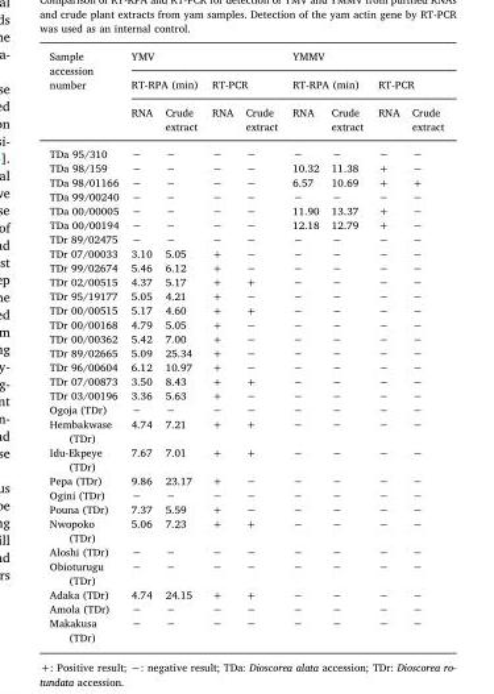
<table><thead><tr><td rowspan="3">Sample accession number</td><td colspan="4">YMV</td><td colspan="4">YMMV</td></tr><tr><td colspan="2">RT-RPA (min)</td><td colspan="2">RT-PCR</td><td colspan="2">RT-RPA (min)</td><td colspan="2">RT-PCR</td></tr><tr><td>RNA</td><td>Crude extract</td><td>RNA</td><td>Crude extract</td><td>RNA</td><td>Crude extract</td><td>RNA</td><td>Crude extract</td></tr></thead><tbody><tr><td>TDa 95/310</td><td>−</td><td>−</td><td>−</td><td>−</td><td>−</td><td>−</td><td>−</td><td>−</td></tr><tr><td>TDa 98/159</td><td>−</td><td>−</td><td>−</td><td>−</td><td>10.32</td><td>11.38</td><td>+</td><td>−</td></tr><tr><td>TDa 98/01166</td><td>−</td><td>−</td><td>−</td><td>−</td><td>6.57</td><td>10.69</td><td>+</td><td>+</td></tr><tr><td>TDa 99/00240</td><td>−</td><td>−</td><td>−</td><td>−</td><td>−</td><td>−</td><td>−</td><td>−</td></tr><tr><td>TDa 00/00005</td><td>−</td><td>−</td><td>−</td><td>−</td><td>11.90</td><td>13.37</td><td>+</td><td>−</td></tr><tr><td>TDa 00/00194</td><td>−</td><td>−</td><td>−</td><td>−</td><td>12.18</td><td>12.79</td><td>+</td><td>−</td></tr><tr><td>TDr 89/02475</td><td>−</td><td>−</td><td>−</td><td>−</td><td>−</td><td>−</td><td>−</td><td>−</td></tr><tr><td>TDr 07/00033</td><td>3.10</td><td>5.05</td><td>+</td><td>−</td><td>−</td><td>−</td><td>−</td><td>−</td></tr><tr><td>TDr 99/02674</td><td>5.46</td><td>6.12</td><td>+</td><td>−</td><td>−</td><td>−</td><td>−</td><td>−</td></tr><tr><td>TDr 02/00515</td><td>4.37</td><td>5.17</td><td>+</td><td>+</td><td>−</td><td>−</td><td>−</td><td>−</td></tr><tr><td>TDr 95/19177</td><td>5.05</td><td>4.21</td><td>+</td><td>−</td><td>−</td><td>−</td><td>−</td><td>−</td></tr><tr><td>TDr 00/00515</td><td>5.17</td><td>4.60</td><td>+</td><td>+</td><td>−</td><td>−</td><td>−</td><td>−</td></tr><tr><td>TDr 00/00168</td><td>4.79</td><td>5.05</td><td>+</td><td>−</td><td>−</td><td>−</td><td>−</td><td>−</td></tr><tr><td>TDr 00/00362</td><td>5.42</td><td>7.00</td><td>+</td><td>−</td><td>−</td><td>−</td><td>−</td><td>−</td></tr><tr><td>TDr 89/02665</td><td>5.09</td><td>25.34</td><td>+</td><td>−</td><td>−</td><td>−</td><td>−</td><td>−</td></tr><tr><td>TDr 96/00604</td><td>6.12</td><td>10.97</td><td>+</td><td>−</td><td>−</td><td>−</td><td>−</td><td>−</td></tr><tr><td>TDr 07/00873</td><td>3.50</td><td>8.43</td><td>+</td><td>+</td><td>−</td><td>−</td><td>−</td><td>−</td></tr><tr><td>TDr 03/00196</td><td>3.36</td><td>5.63</td><td>+</td><td>−</td><td>−</td><td>−</td><td>−</td><td>−</td></tr><tr><td>Ogoja (TDr)</td><td>−</td><td>−</td><td>−</td><td>−</td><td>−</td><td>−</td><td>−</td><td>−</td></tr><tr><td>Hembakwase (TDr)</td><td>4.74</td><td>7.21</td><td>+</td><td>+</td><td>−</td><td>−</td><td>−</td><td>−</td></tr><tr><td>Idu-Ekpeye (TDr)</td><td>7.67</td><td>7.01</td><td>+</td><td>+</td><td>−</td><td>−</td><td>−</td><td>−</td></tr><tr><td>Pepa (TDr)</td><td>9.86</td><td>23.17</td><td>+</td><td>−</td><td>−</td><td>−</td><td>−</td><td>−</td></tr><tr><td>Ogini (TDr)</td><td>−</td><td>−</td><td>−</td><td>−</td><td>−</td><td>−</td><td>−</td><td>−</td></tr><tr><td>Pouna (TDr)</td><td>7.37</td><td>5.59</td><td>+</td><td>−</td><td>−</td><td>−</td><td>−</td><td>−</td></tr><tr><td>Nwopoko (TDr)</td><td>5.06</td><td>7.23</td><td>+</td><td>+</td><td>−</td><td>−</td><td>−</td><td>−</td></tr><tr><td>Aloshi (TDr)</td><td>−</td><td>−</td><td>−</td><td>−</td><td>−</td><td>−</td><td>−</td><td>−</td></tr><tr><td>Obioturugu (TDr)</td><td>−</td><td>−</td><td>−</td><td>−</td><td>−</td><td>−</td><td>−</td><td>−</td></tr><tr><td>Adaka (TDr)</td><td>4.74</td><td>24.15</td><td>+</td><td>+</td><td>−</td><td>−</td><td>−</td><td>−</td></tr><tr><td>Amola (TDr)</td><td>−</td><td>−</td><td>−</td><td>−</td><td>−</td><td>−</td><td>−</td><td>−</td></tr><tr><td>Makakusa (TDr)</td><td>−</td><td>−</td><td>−</td><td>−</td><td>−</td><td>−</td><td>−</td><td>−</td></tr></tbody></table>